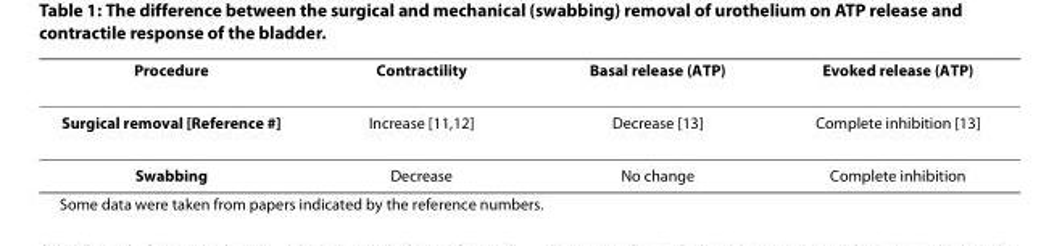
<table><thead><tr><td>Procedure</td><td>Contractility</td><td>Basal release (ATP)</td><td>Evoked release (ATP)</td></tr></thead><tbody><tr><td>Surgical removal [Reference #]</td><td>Increase [11,12]</td><td>Decrease [13]</td><td>Complete inhibition [13]</td></tr><tr><td>Swabbing</td><td>Decrease</td><td>No change</td><td>Complete inhibition</td></tr></tbody></table>